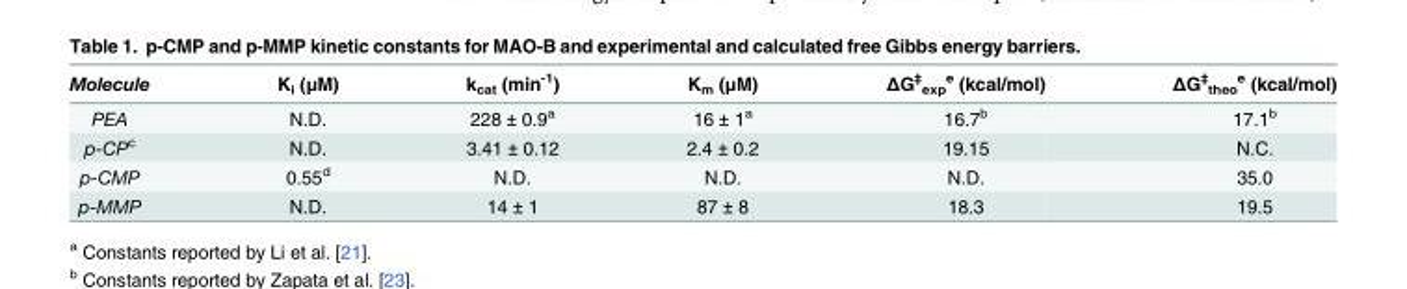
<table><thead><tr><td>Molecule</td><td>K<sub>i</sub> (μM)</td><td>k<sub>cat</sub> (min<sup>-1</sup>)</td><td>K<sub>m</sub> (μM)</td><td>ΔG‡ exp e (kcal/mol)</td><td>ΔG‡ theo e (kcal/mol)</td></tr></thead><tbody><tr><td>PEA</td><td>N.D.</td><td>228 ± 0.9<sup>a</sup></td><td>16 ± 1<sup>a</sup></td><td>16.7<sup>b</sup></td><td>17.1<sup>b</sup></td></tr><tr><td>p-CP<sup>c</sup></td><td>N.D.</td><td>3.41 ± 0.12</td><td>2.4 ± 0.2</td><td>19.15</td><td>N.C.</td></tr><tr><td>p-CMP</td><td>0.55<sup>d</sup></td><td>N.D.</td><td>N.D.</td><td>N.D.</td><td>35.0</td></tr><tr><td>p-MMP</td><td>N.D.</td><td>14 ± 1</td><td>87 ± 8</td><td>18.3</td><td>19.5</td></tr></tbody></table>